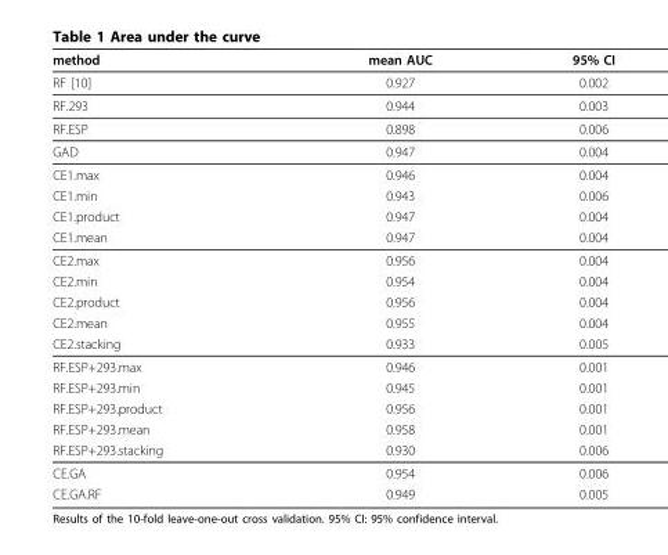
<table><thead><tr><td>method</td><td>mean AUC</td><td>95% CI</td></tr></thead><tbody><tr><td>RF [10]</td><td>0.927</td><td>0.002</td></tr><tr><td>RF.293</td><td>0.944</td><td>0.003</td></tr><tr><td>RF.ESP</td><td>0.898</td><td>0.006</td></tr><tr><td>GAD</td><td>0.947</td><td>0.004</td></tr><tr><td>CE1.max</td><td>0.946</td><td>0.004</td></tr><tr><td>CE1.min</td><td>0.943</td><td>0.006</td></tr><tr><td>CE1.product</td><td>0.947</td><td>0.004</td></tr><tr><td>CE1.mean</td><td>0.947</td><td>0.004</td></tr><tr><td>CE2.max</td><td>0.956</td><td>0.004</td></tr><tr><td>CE2.min</td><td>0.954</td><td>0.004</td></tr><tr><td>CE2.product</td><td>0.956</td><td>0.004</td></tr><tr><td>CE2.mean</td><td>0.955</td><td>0.004</td></tr><tr><td>CE2.stacking</td><td>0.933</td><td>0.005</td></tr><tr><td>RF.ESP+293.max</td><td>0.946</td><td>0.001</td></tr><tr><td>RF.ESP+293.min</td><td>0.945</td><td>0.001</td></tr><tr><td>RF.ESP+293.product</td><td>0.956</td><td>0.001</td></tr><tr><td>RF.ESP+293.mean</td><td>0.958</td><td>0.001</td></tr><tr><td>RF.ESP+293.stacking</td><td>0.930</td><td>0.006</td></tr><tr><td>CE.GA</td><td>0.954</td><td>0.006</td></tr><tr><td>CE.GA.RF</td><td>0.949</td><td>0.005</td></tr></tbody></table>